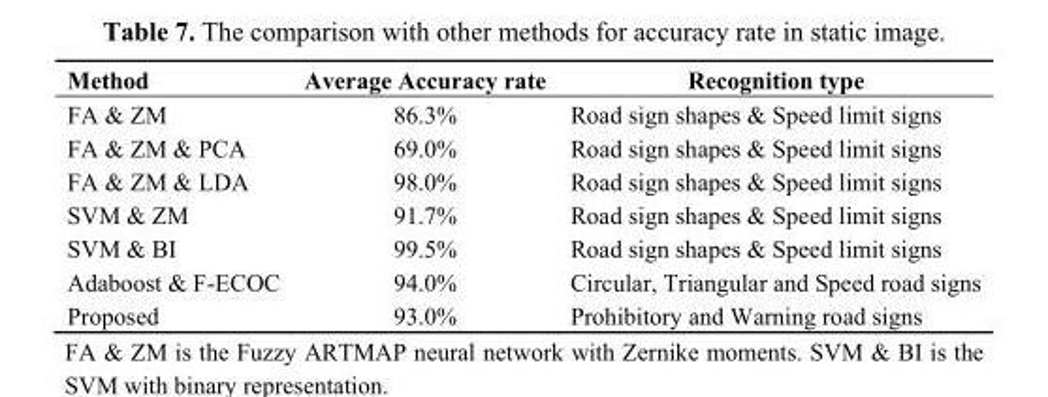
<table><thead><tr><td>Method</td><td>Average Accuracy rate</td><td>Recognition type</td></tr></thead><tbody><tr><td>FA &amp; ZM</td><td>86.3%</td><td>Road sign shapes &amp; Speed limit signs</td></tr><tr><td>FA &amp; ZM &amp; PCA</td><td>69.0%</td><td>Road sign shapes &amp; Speed limit signs</td></tr><tr><td>FA &amp; ZM &amp; LDA</td><td>98.0%</td><td>Road sign shapes &amp; Speed limit signs</td></tr><tr><td>SVM &amp; ZM</td><td>91.7%</td><td>Road sign shapes &amp; Speed limit signs</td></tr><tr><td>SVM &amp; BI</td><td>99.5%</td><td>Road sign shapes &amp; Speed limit signs</td></tr><tr><td>Adaboost &amp; F-ECOC</td><td>94.0%</td><td>Circular, Triangular and Speed road signs</td></tr><tr><td>Proposed</td><td>93.0%</td><td>Prohibitory and Warning road signs</td></tr></tbody></table>